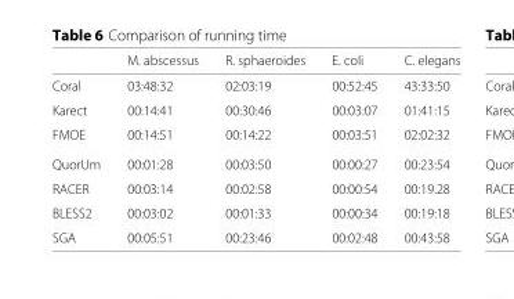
<table><thead><tr><td></td><td>M. abscessus</td><td>R. sphaeroides</td><td>E. coli</td><td>C. elegans</td></tr></thead><tbody><tr><td>Coral</td><td>03:48:32</td><td>02:03:19</td><td>00:52:45</td><td>43:33:50</td></tr><tr><td>Karect</td><td>00:14:41</td><td>00:30:46</td><td>00:03:07</td><td>01:41:15</td></tr><tr><td>FMOE</td><td>00:14:51</td><td>00:14:22</td><td>00:03:51</td><td>02:02:32</td></tr><tr><td>QuorUm</td><td>00:01:28</td><td>00:03:50</td><td>00:00:27</td><td>00:23:54</td></tr><tr><td>RACER</td><td>00:03:14</td><td>00:02:58</td><td>00:00:54</td><td>00:19.28</td></tr><tr><td>BLESS2</td><td>00:03:02</td><td>00:01:33</td><td>00:00:34</td><td>00:19:18</td></tr><tr><td>SGA</td><td>00:05:51</td><td>00:23:46</td><td>00:02:48</td><td>00:43:58</td></tr></tbody></table>